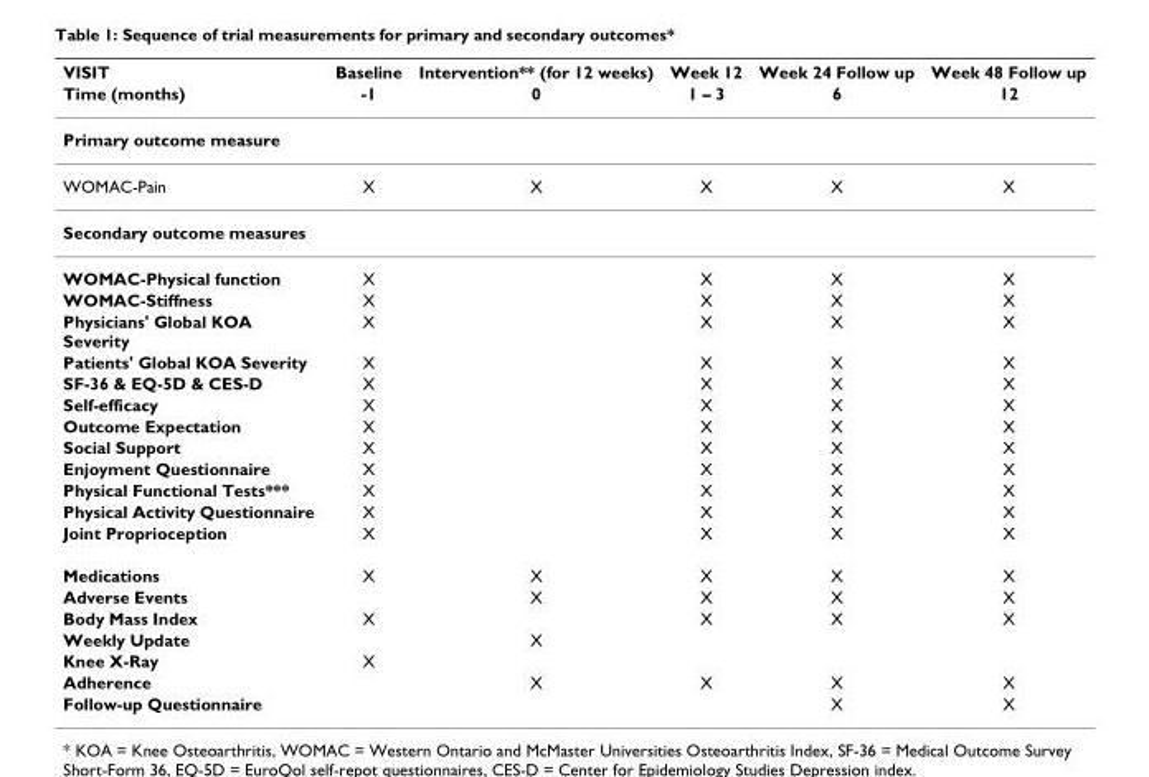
<table><thead><tr><td rowspan="2">VISIT Time (months)</td><td rowspan="2">Baseline -1</td><td rowspan="2">Intervention** (for 12 weeks) 0</td><td rowspan="2">Week 12 1 – 3</td><td rowspan="2">Week 24 Follow up 6</td><td rowspan="2">Week 48 Follow up 12</td></tr><tr></tr></thead><tbody><tr><td colspan="6">Primary outcome measure</td></tr><tr><td>WOMAC-Pain</td><td>X</td><td>X</td><td>X</td><td>X</td><td>X</td></tr><tr><td colspan="6">Secondary outcome measures</td></tr><tr><td>WOMAC-Physical function</td><td>X</td><td></td><td>X</td><td>X</td><td>X</td></tr><tr><td>WOMAC-Stiffness</td><td>X</td><td></td><td>X</td><td>X</td><td>X</td></tr><tr><td>Physicians&#x27; Global KOA Severity</td><td>X</td><td></td><td>X</td><td>X</td><td>X</td></tr><tr><td>Patients&#x27; Global KOA Severity</td><td>X</td><td></td><td>X</td><td>X</td><td>X</td></tr><tr><td>SF-36 &amp; EQ-5D &amp; CES-D</td><td>X</td><td></td><td>X</td><td>X</td><td>X</td></tr><tr><td>Self-efficacy</td><td>X</td><td></td><td>X</td><td>X</td><td>X</td></tr><tr><td>Outcome Expectation</td><td>X</td><td></td><td>X</td><td>X</td><td>X</td></tr><tr><td>Social Support</td><td>X</td><td></td><td>X</td><td>X</td><td>X</td></tr><tr><td>Enjoyment Questionnaire</td><td>X</td><td></td><td>X</td><td>X</td><td>X</td></tr><tr><td>Physical Functional Tests***</td><td>X</td><td></td><td>X</td><td>X</td><td>X</td></tr><tr><td>Physical Activity Questionnaire</td><td>X</td><td></td><td>X</td><td>X</td><td>X</td></tr><tr><td>Joint Proprioception</td><td>X</td><td></td><td>X</td><td>X</td><td>X</td></tr><tr><td>Medications</td><td>X</td><td>X</td><td>X</td><td>X</td><td>X</td></tr><tr><td>Adverse Events</td><td></td><td>X</td><td>X</td><td>X</td><td>X</td></tr><tr><td>Body Mass Index</td><td>X</td><td></td><td>X</td><td>X</td><td>X</td></tr><tr><td>Weekly Update</td><td></td><td>X</td><td></td><td></td><td></td></tr><tr><td>Knee X-Ray</td><td>X</td><td></td><td></td><td></td><td></td></tr><tr><td>Adherence</td><td></td><td>X</td><td>X</td><td>X</td><td>X</td></tr><tr><td>Follow-up Questionnaire</td><td></td><td></td><td></td><td>X</td><td>X</td></tr></tbody></table>